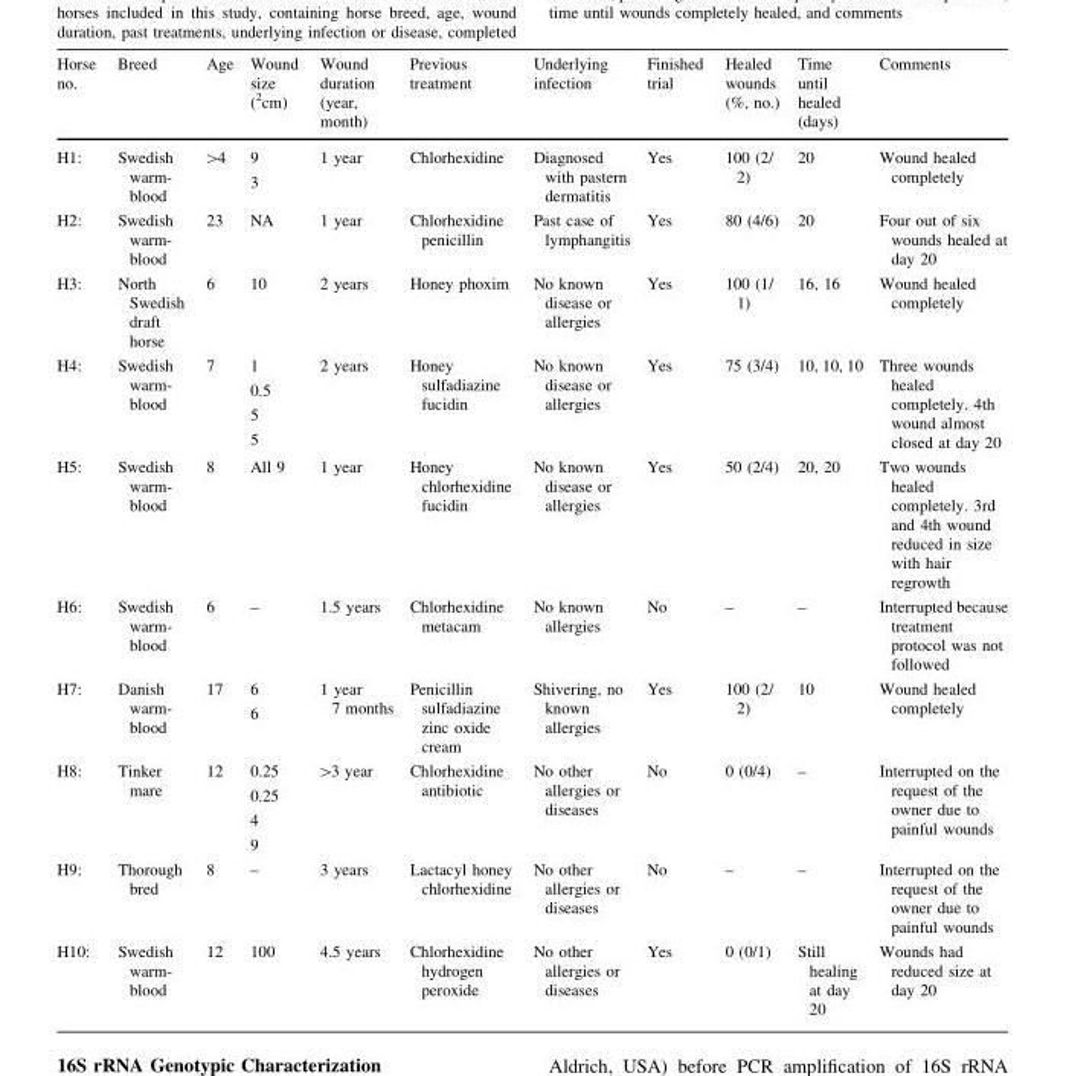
<table><thead><tr><td>Horse no.</td><td>Breed</td><td>Age</td><td>Wound size (<sup>2</sup>cm)</td><td>Wound duration (year, month)</td><td>Previous treatment</td><td>Underlying infection</td><td>Finished trial</td><td>Healed wounds (%, no.)</td><td>Time until healed (days)</td><td>Comments</td></tr></thead><tbody><tr><td>H1:</td><td>Swedish warm- blood</td><td>&gt;4</td><td>9 3</td><td>1 year</td><td>Chlorhexidine</td><td>Diagnosed with pastern dermatitis</td><td>Yes</td><td>100 (2/ 2)</td><td>20</td><td>Wound healed completely</td></tr><tr><td>H2:</td><td>Swedish warm- blood</td><td>23</td><td>NA</td><td>1 year</td><td>Chlorhexidine penicillin</td><td>Past case of lymphangitis</td><td>Yes</td><td>80 (4/6)</td><td>20</td><td>Four out of six wounds healed at day 20</td></tr><tr><td>H3:</td><td>North Swedish draft horse</td><td>6</td><td>10</td><td>2 years</td><td>Honey phoxim</td><td>No known disease or allergies</td><td>Yes</td><td>100 (1/ 1)</td><td>16, 16</td><td>Wound healed completely</td></tr><tr><td>H4:</td><td>Swedish warm- blood</td><td>7</td><td>1 0.5 5 5</td><td>2 years</td><td>Honey sulfadiazine fucidin</td><td>No known disease or allergies</td><td>Yes</td><td>75 (3/4)</td><td>10, 10, 10</td><td>Three wounds healed completely. 4th wound almost closed at day 20</td></tr><tr><td>H5:</td><td>Swedish warm- blood</td><td>8</td><td>All 9</td><td>1 year</td><td>Honey chlorhexidine fucidin</td><td>No known disease or allergies</td><td>Yes</td><td>50 (2/4)</td><td>20, 20</td><td>Two wounds healed completely. 3rd and 4th wound reduced in size with hair regrowth</td></tr><tr><td>H6:</td><td>Swedish warm- blood</td><td>6</td><td>–</td><td>1.5 years</td><td>Chlorhexidine metacam</td><td>No known allergies</td><td>No</td><td>–</td><td>–</td><td>Interrupted because treatment protocol was not followed</td></tr><tr><td>H7:</td><td>Danish warm- blood</td><td>17</td><td>6 6</td><td>1 year 7 months</td><td>Penicillin sulfadiazine zinc oxide cream</td><td>Shivering, no known allergies</td><td>Yes</td><td>100 (2/ 2)</td><td>10</td><td>Wound healed completely</td></tr><tr><td>H8:</td><td>Tinker mare</td><td>12</td><td>0.25 0.25 4 9</td><td>&gt;3 year</td><td>Chlorhexidine antibiotic</td><td>No other allergies or diseases</td><td>No</td><td>0 (0/4)</td><td>–</td><td>Interrupted on the request of the owner due to painful wounds</td></tr><tr><td>H9:</td><td>Thorough bred</td><td>8</td><td>–</td><td>3 years</td><td>Lactacyl honey chlorhexidine</td><td>No other allergies or diseases</td><td>No</td><td>–</td><td>–</td><td>Interrupted on the request of the owner due to painful wounds</td></tr><tr><td>H10:</td><td>Swedish warm- blood</td><td>12</td><td>100</td><td>4.5 years</td><td>Chlorhexidine hydrogen peroxide</td><td>No other allergies or diseases</td><td>Yes</td><td>0 (0/1)</td><td>Still healing at day 20</td><td>Wounds had reduced size at day 20</td></tr></tbody></table>